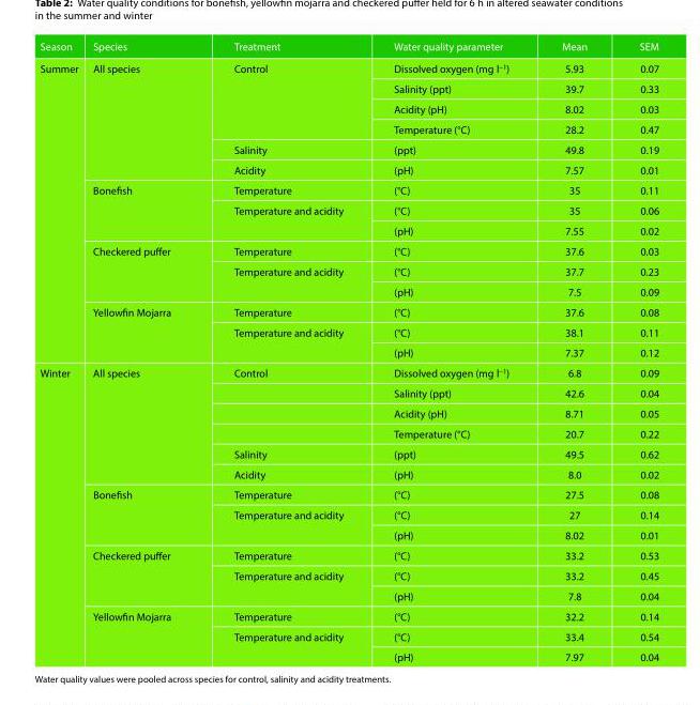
<table><thead><tr><td>Season</td><td>Species</td><td>Treatment</td><td>Water quality parameter</td><td>Mean</td><td>SEM</td></tr></thead><tbody><tr><td rowspan="15">Summer</td><td>All species</td><td>Control</td><td>Dissolved oxygen (mg l<sup>−1</sup>)</td><td>5.93</td><td>0.07</td></tr><tr><td></td><td></td><td>Salinity (ppt)</td><td>39.7</td><td>0.33</td></tr><tr><td></td><td></td><td>Acidity (pH)</td><td>8.02</td><td>0.03</td></tr><tr><td></td><td></td><td>Temperature (°C)</td><td>28.2</td><td>0.47</td></tr><tr><td></td><td>Salinity</td><td>(ppt)</td><td>49.8</td><td>0.19</td></tr><tr><td></td><td>Acidity</td><td>(pH)</td><td>7.57</td><td>0.01</td></tr><tr><td>Bonefish</td><td>Temperature</td><td>(°C)</td><td>35</td><td>0.11</td></tr><tr><td></td><td>Temperature and acidity</td><td>(°C)</td><td>35</td><td>0.06</td></tr><tr><td></td><td></td><td>(pH)</td><td>7.55</td><td>0.02</td></tr><tr><td>Checkered puffer</td><td>Temperature</td><td>(°C)</td><td>37.6</td><td>0.03</td></tr><tr><td></td><td>Temperature and acidity</td><td>(°C)</td><td>37.7</td><td>0.23</td></tr><tr><td></td><td></td><td>(pH)</td><td>7.5</td><td>0.09</td></tr><tr><td>Yellowfin Mojarra</td><td>Temperature</td><td>(°C)</td><td>37.6</td><td>0.08</td></tr><tr><td></td><td>Temperature and acidity</td><td>(°C)</td><td>38.1</td><td>0.11</td></tr><tr><td></td><td></td><td>(pH)</td><td>7.37</td><td>0.12</td></tr><tr><td rowspan="15">Winter</td><td>All species</td><td>Control</td><td>Dissolved oxygen (mg l<sup>−1</sup>)</td><td>6.8</td><td>0.09</td></tr><tr><td></td><td></td><td>Salinity (ppt)</td><td>42.6</td><td>0.04</td></tr><tr><td></td><td></td><td>Acidity (pH)</td><td>8.71</td><td>0.05</td></tr><tr><td></td><td></td><td>Temperature (°C)</td><td>20.7</td><td>0.22</td></tr><tr><td></td><td>Salinity</td><td>(ppt)</td><td>49.5</td><td>0.62</td></tr><tr><td></td><td>Acidity</td><td>(pH)</td><td>8.0</td><td>0.02</td></tr><tr><td>Bonefish</td><td>Temperature</td><td>(°C)</td><td>27.5</td><td>0.08</td></tr><tr><td></td><td>Temperature and acidity</td><td>(°C)</td><td>27</td><td>0.14</td></tr><tr><td></td><td></td><td>(pH)</td><td>8.02</td><td>0.01</td></tr><tr><td>Checkered puffer</td><td>Temperature</td><td>(°C)</td><td>33.2</td><td>0.53</td></tr><tr><td></td><td>Temperature and acidity</td><td>(°C)</td><td>33.2</td><td>0.45</td></tr><tr><td></td><td></td><td>(pH)</td><td>7.8</td><td>0.04</td></tr><tr><td>Yellowfin Mojarra</td><td>Temperature</td><td>(°C)</td><td>32.2</td><td>0.14</td></tr><tr><td></td><td>Temperature and acidity</td><td>(°C)</td><td>33.4</td><td>0.54</td></tr><tr><td></td><td></td><td>(pH)</td><td>7.97</td><td>0.04</td></tr></tbody></table>